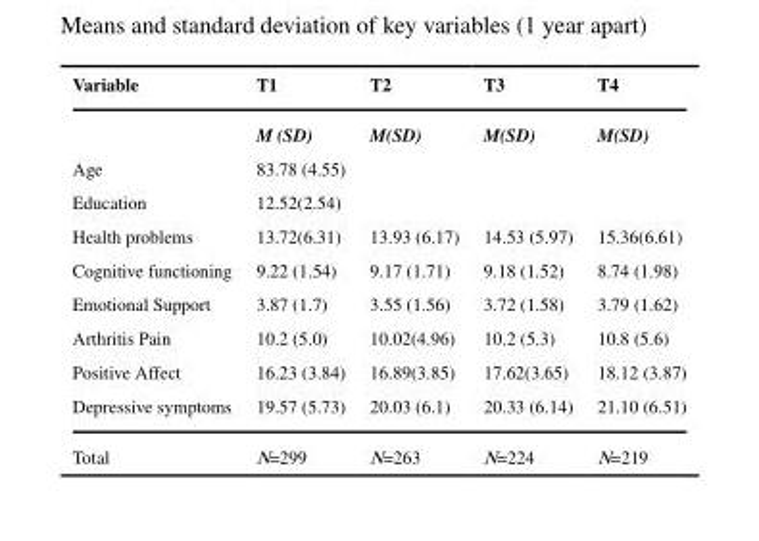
<table><thead><tr><td rowspan="2">Variable</td><td rowspan="2">T1 M (SD)</td><td rowspan="2">T2 M(SD)</td><td rowspan="2">T3 M(SD)</td><td rowspan="2">T4 M(SD)</td></tr><tr></tr></thead><tbody><tr><td>Age</td><td>83.78 (4.55)</td><td></td><td></td><td></td></tr><tr><td>Education</td><td>12.52(2.54)</td><td></td><td></td><td></td></tr><tr><td>Health problems</td><td>13.72(6.31)</td><td>13.93 (6.17)</td><td>14.53 (5.97)</td><td>15.36(6.61)</td></tr><tr><td>Cognitive functioning</td><td>9.22 (1.54)</td><td>9.17 (1.71)</td><td>9.18 (1.52)</td><td>8.74 (1.98)</td></tr><tr><td>Emotional Support</td><td>3.87 (1.7)</td><td>3.55 (1.56)</td><td>3.72 (1.58)</td><td>3.79 (1.62)</td></tr><tr><td>Arthritis Pain</td><td>10.2 (5.0)</td><td>10.02(4.96)</td><td>10.2 (5.3)</td><td>10.8 (5.6)</td></tr><tr><td>Positive Affect</td><td>16.23 (3.84)</td><td>16.89(3.85)</td><td>17.62(3.65)</td><td>18.12 (3.87)</td></tr><tr><td>Depressive symptoms</td><td>19.57 (5.73)</td><td>20.03 (6.1)</td><td>20.33 (6.14)</td><td>21.10 (6.51)</td></tr><tr><td>Total</td><td>N=299</td><td>N=263</td><td>N=224</td><td>N=219</td></tr></tbody></table>